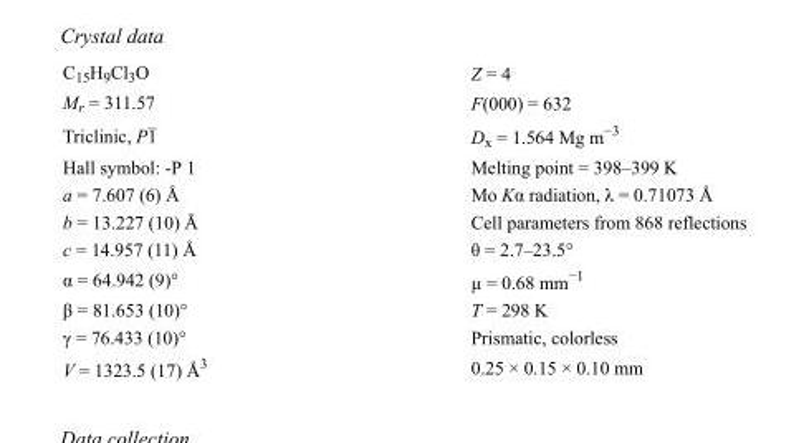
<table><tbody><tr><td>C<sub>15</sub>H<sub>9</sub>Cl<sub>3</sub>O</td><td>Z = 4</td></tr><tr><td>M<sub>r</sub> = 311.57</td><td>F(000) = 632</td></tr><tr><td>Triclinic, P1</td><td>D<sub>x</sub> = 1.564 Mg m<sup>−3</sup></td></tr><tr><td>Hall symbol: -P 1</td><td>Melting point = 398–399 K</td></tr><tr><td>a = 7.607 (6) Å</td><td>Mo Kα radiation, λ = 0.71073 Å</td></tr><tr><td>b = 13.227 (10) Å</td><td>Cell parameters from 868 reflections</td></tr><tr><td>c = 14.957 (11) Å</td><td>θ = 2.7–23.5°</td></tr><tr><td>α = 64.942 (9)°</td><td>µ = 0.68 mm<sup>−1</sup></td></tr><tr><td>β = 81.653 (10)°</td><td>T = 298 K</td></tr><tr><td>γ = 76.433 (10)°</td><td>Prismatic, colorless</td></tr><tr><td>V = 1323.5 (17) Å<sup>3</sup></td><td>0.25 × 0.15 × 0.10 mm</td></tr></tbody></table>